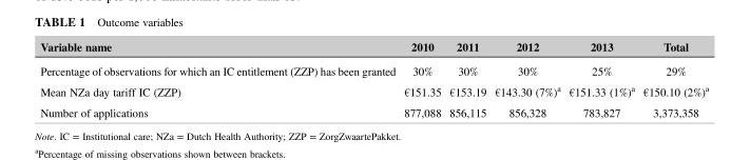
<table><thead><tr><td>Variable name</td><td>2010</td><td>2011</td><td>2012</td><td>2013</td><td>Total</td></tr></thead><tbody><tr><td>Percentage of observations for which an IC entitlement (ZZP) has been granted</td><td>30%</td><td>30%</td><td>30%</td><td>25%</td><td>29%</td></tr><tr><td>Mean NZa day tariff IC (ZZP)</td><td>€151.35</td><td>€153.19</td><td>€143.30 (7%)<sup>a</sup></td><td>€151.33 (1%)<sup>a</sup></td><td>€150.10 (2%)<sup>a</sup></td></tr><tr><td>Number of applications</td><td>877,088</td><td>856,115</td><td>856,328</td><td>783,827</td><td>3,373,358</td></tr></tbody></table>